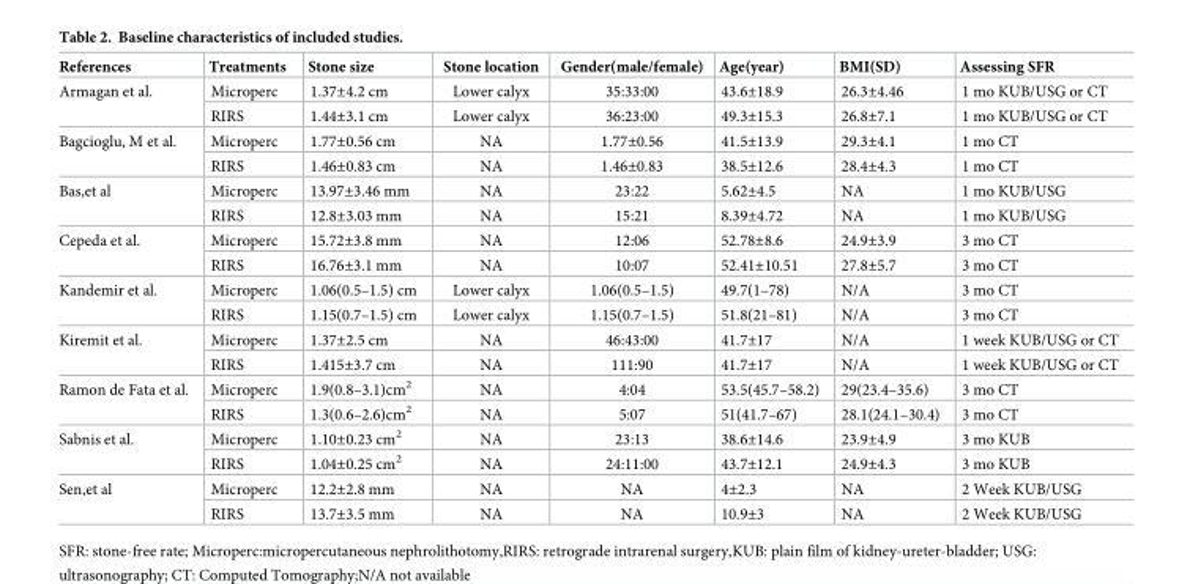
<table><thead><tr><td>References</td><td>Treatments</td><td>Stone size</td><td>Stone location</td><td>Gender(male/female)</td><td>Age(year)</td><td>BMI(SD)</td><td>Assessing SFR</td></tr></thead><tbody><tr><td rowspan="2">Armagan et al.</td><td>Microperc</td><td>1.37±4.2 cm</td><td>Lower calyx</td><td>35:33:00</td><td>43.6±18.9</td><td>26.3±4.46</td><td>1 mo KUB/USG or CT</td></tr><tr><td>RIRS</td><td>1.44±3.1 cm</td><td>Lower calyx</td><td>36:23:00</td><td>49.3±15.3</td><td>26.8±7.1</td><td>1 mo KUB/USG or CT</td></tr><tr><td rowspan="2">Bagcioglu, M et al.</td><td>Microperc</td><td>1.77±0.56 cm</td><td>NA</td><td>1.77±0.56</td><td>41.5±13.9</td><td>29.3±4.1</td><td>1 mo CT</td></tr><tr><td>RIRS</td><td>1.46±0.83 cm</td><td>NA</td><td>1.46±0.83</td><td>38.5±12.6</td><td>28.4±4.3</td><td>1 mo CT</td></tr><tr><td rowspan="2">Bas,et al</td><td>Microperc</td><td>13.97±3.46 mm</td><td>NA</td><td>23:22</td><td>5.62±4.5</td><td>NA</td><td>1 mo KUB/USG</td></tr><tr><td>RIRS</td><td>12.8±3.03 mm</td><td>NA</td><td>15:21</td><td>8.39±4.72</td><td>NA</td><td>1 mo KUB/USG</td></tr><tr><td rowspan="2">Cepeda et al.</td><td>Microperc</td><td>15.72±3.8 mm</td><td>NA</td><td>12:06</td><td>52.78±8.6</td><td>24.9±3.9</td><td>3 mo CT</td></tr><tr><td>RIRS</td><td>16.76±3.1 mm</td><td>NA</td><td>10:07</td><td>52.41±10.51</td><td>27.8±5.7</td><td>3 mo CT</td></tr><tr><td rowspan="2">Kandemir et al.</td><td>Microperc</td><td>1.06(0.5–1.5) cm</td><td>Lower calyx</td><td>1.06(0.5–1.5)</td><td>49.7(1–78)</td><td>N/A</td><td>3 mo CT</td></tr><tr><td>RIRS</td><td>1.15(0.7–1.5) cm</td><td>Lower calyx</td><td>1.15(0.7–1.5)</td><td>51.8(21–81)</td><td>N/A</td><td>3 mo CT</td></tr><tr><td rowspan="2">Kiremit et al.</td><td>Microperc</td><td>1.37±2.5 cm</td><td>NA</td><td>46:43:00</td><td>41.7±17</td><td>N/A</td><td>1 week KUB/USG or CT</td></tr><tr><td>RIRS</td><td>1.415±3.7 cm</td><td>NA</td><td>111:90</td><td>41.7±17</td><td>N/A</td><td>1 week KUB/USG or CT</td></tr><tr><td rowspan="2">Ramon de Fata et al.</td><td>Microperc</td><td>1.9(0.8–3.1)cm<sup>2</sup></td><td>NA</td><td>4:04</td><td>53.5(45.7–58.2)</td><td>29(23.4–35.6)</td><td>3 mo CT</td></tr><tr><td>RIRS</td><td>1.3(0.6–2.6)cm<sup>2</sup></td><td>NA</td><td>5:07</td><td>51(41.7–67)</td><td>28.1(24.1–30.4)</td><td>3 mo CT</td></tr><tr><td rowspan="2">Sabnis et al.</td><td>Microperc</td><td>1.10±0.23 cm<sup>2</sup></td><td>NA</td><td>23:13</td><td>38.6±14.6</td><td>23.9±4.9</td><td>3 mo KUB</td></tr><tr><td>RIRS</td><td>1.04±0.25 cm<sup>2</sup></td><td>NA</td><td>24:11:00</td><td>43.7±12.1</td><td>24.9±4.3</td><td>3 mo KUB</td></tr><tr><td rowspan="2">Sen,et al</td><td>Microperc</td><td>12.2±2.8 mm</td><td>NA</td><td>NA</td><td>4±2.3</td><td>NA</td><td>2 Week KUB/USG</td></tr><tr><td>RIRS</td><td>13.7±3.5 mm</td><td>NA</td><td>NA</td><td>10.9±3</td><td>NA</td><td>2 Week KUB/USG</td></tr></tbody></table>